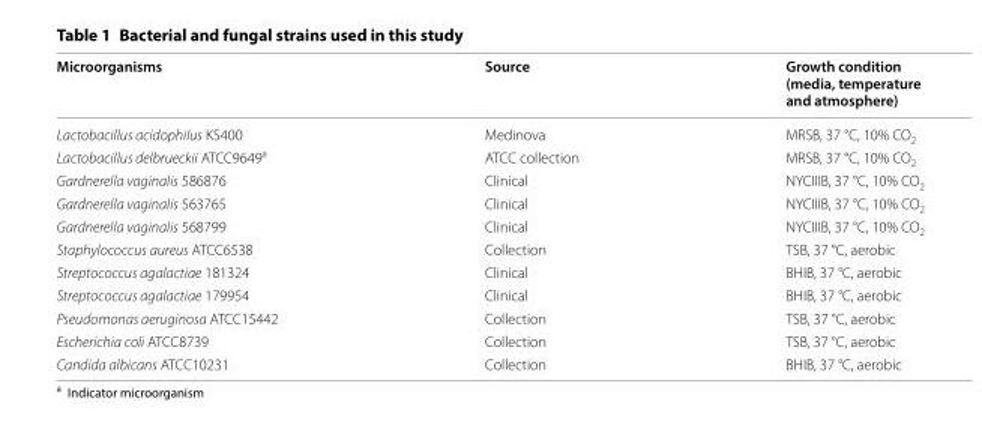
<table><thead><tr><td>Microorganisms</td><td>Source</td><td>Growth condition (media, temperature and atmosphere)</td></tr></thead><tbody><tr><td>Lactobacillus acidophilus KS400</td><td>Medinova</td><td>MRSB, 37 °C, 10% CO<sub>2</sub></td></tr><tr><td>Lactobacillus delbrueckii ATCC9649<sup>a</sup></td><td>ATCC collection</td><td>MRSB, 37 °C, 10% CO<sub>2</sub></td></tr><tr><td>Gardnerella vaginalis 586876</td><td>Clinical</td><td>NYCIIIB, 37 °C, 10% CO<sub>2</sub></td></tr><tr><td>Gardnerella vaginalis 563765</td><td>Clinical</td><td>NYCIIIB, 37 °C, 10% CO<sub>2</sub></td></tr><tr><td>Gardnerella vaginalis 568799</td><td>Clinical</td><td>NYCIIIB, 37 °C, 10% CO<sub>2</sub></td></tr><tr><td>Staphylococcus aureus ATCC6538</td><td>Collection</td><td>TSB, 37 °C, aerobic</td></tr><tr><td>Streptococcus agalactiae 181324</td><td>Clinical</td><td>BHIB, 37 °C, aerobic</td></tr><tr><td>Streptococcus agalactiae 179954</td><td>Clinical</td><td>BHIB, 37 °C, aerobic</td></tr><tr><td>Pseudomonas aeruginosa ATCC15442</td><td>Collection</td><td>TSB, 37 °C, aerobic</td></tr><tr><td>Escherichia coli ATCC8739</td><td>Collection</td><td>TSB, 37 °C, aerobic</td></tr><tr><td>Candida albicans ATCC10231</td><td>Collection</td><td>BHIB, 37 °C, aerobic</td></tr></tbody></table>